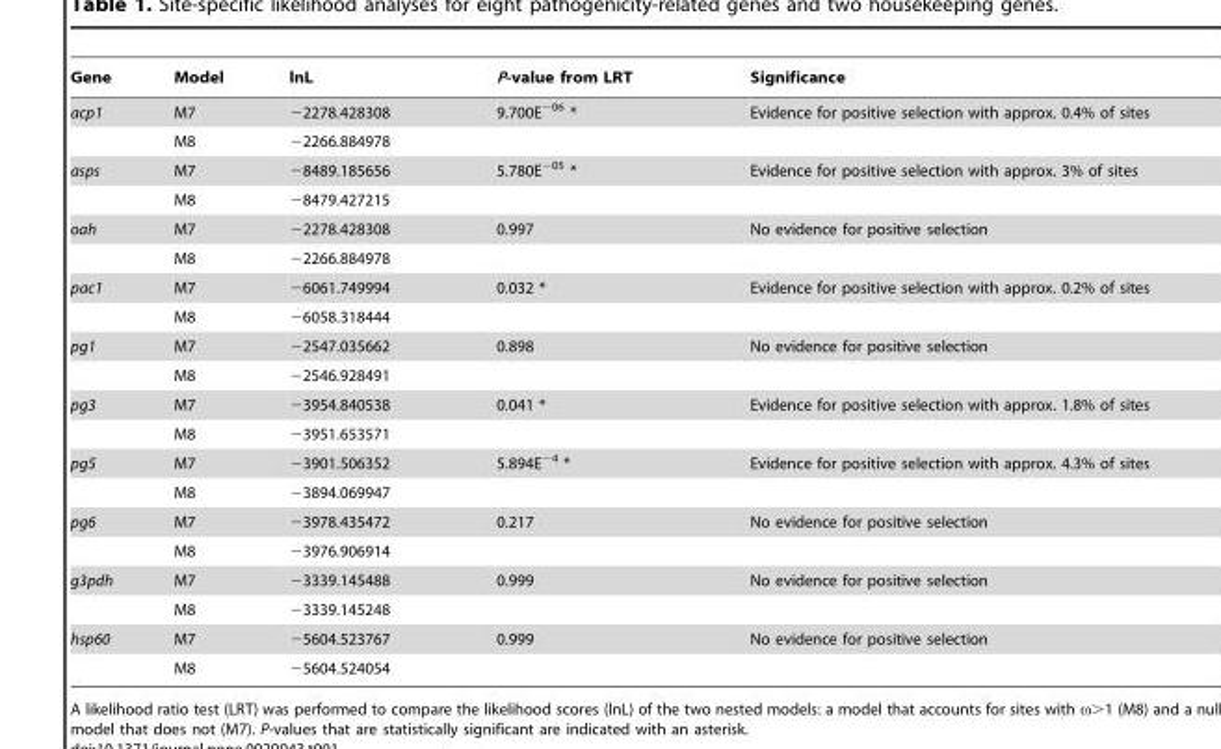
<table><thead><tr><td>Gene</td><td>Model</td><td>lnL</td><td>P-value from LRT</td><td>Significance</td></tr></thead><tbody><tr><td rowspan="2">acp1</td><td>M7</td><td>−2278.428308</td><td>9.700E<sup>−06</sup> *</td><td>Evidence for positive selection with approx. 0.4% of sites</td></tr><tr><td>M8</td><td>−2266.884978</td><td></td><td></td></tr><tr><td rowspan="2">asps</td><td>M7</td><td>−8489.185656</td><td>5.780E<sup>−05</sup> *</td><td>Evidence for positive selection with approx. 3% of sites</td></tr><tr><td>M8</td><td>−8479.427215</td><td></td><td></td></tr><tr><td rowspan="2">oah</td><td>M7</td><td>−2278.428308</td><td>0.997</td><td>No evidence for positive selection</td></tr><tr><td>M8</td><td>−2266.884978</td><td></td><td></td></tr><tr><td rowspan="2">pac1</td><td>M7</td><td>−6061.749994</td><td>0.032 *</td><td>Evidence for positive selection with approx. 0.2% of sites</td></tr><tr><td>M8</td><td>−6058.318444</td><td></td><td></td></tr><tr><td rowspan="2">pg1</td><td>M7</td><td>−2547.035662</td><td>0.898</td><td>No evidence for positive selection</td></tr><tr><td>M8</td><td>−2546.928491</td><td></td><td></td></tr><tr><td rowspan="2">pg3</td><td>M7</td><td>−3954.840538</td><td>0.041 *</td><td>Evidence for positive selection with approx. 1.8% of sites</td></tr><tr><td>M8</td><td>−3951.653571</td><td></td><td></td></tr><tr><td rowspan="2">pg5</td><td>M7</td><td>−3901.506352</td><td>5.894E<sup>−4</sup> *</td><td>Evidence for positive selection with approx. 4.3% of sites</td></tr><tr><td>M8</td><td>−3894.069947</td><td></td><td></td></tr><tr><td rowspan="2">pg6</td><td>M7</td><td>−3978.435472</td><td>0.217</td><td>No evidence for positive selection</td></tr><tr><td>M8</td><td>−3976.906914</td><td></td><td></td></tr><tr><td rowspan="2">g3pdh</td><td>M7</td><td>−3339.145488</td><td>0.999</td><td>No evidence for positive selection</td></tr><tr><td>M8</td><td>−3339.145248</td><td></td><td></td></tr><tr><td rowspan="2">hsp60</td><td>M7</td><td>−5604.523767</td><td>0.999</td><td>No evidence for positive selection</td></tr><tr><td>M8</td><td>−5604.524054</td><td></td><td></td></tr></tbody></table>